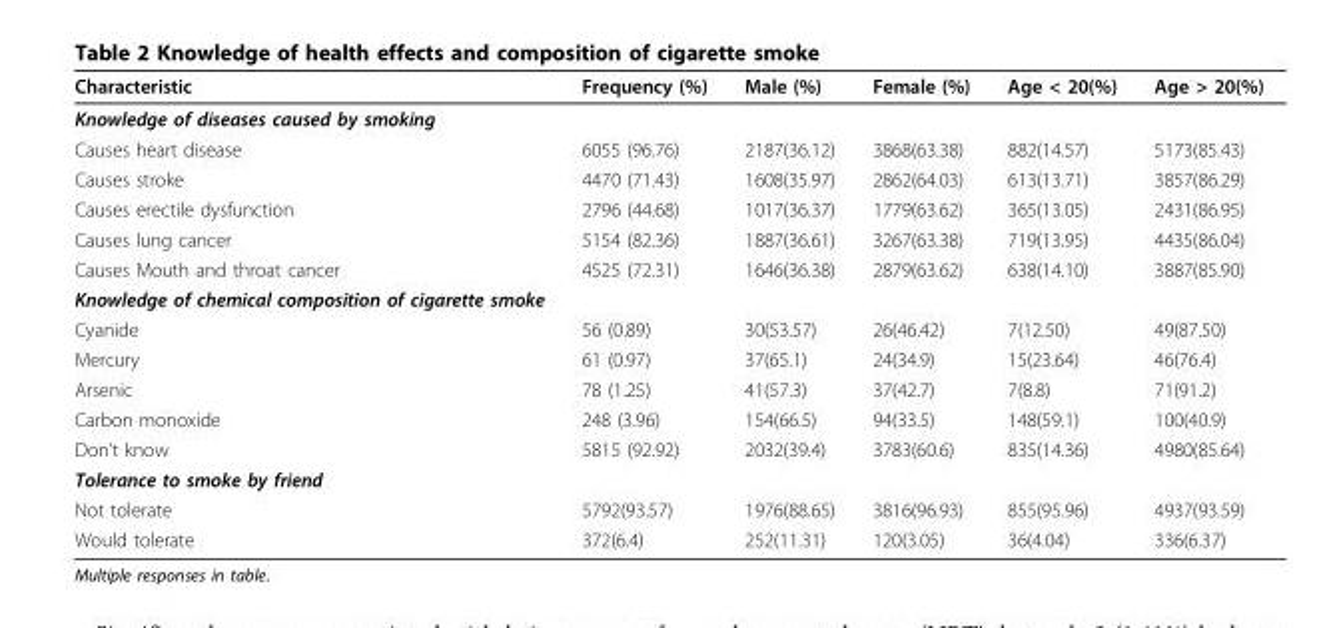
<table><thead><tr><td>Characteristic</td><td>Frequency (%)</td><td>Male (%)</td><td>Female (%)</td><td>Age &lt; 20(%)</td><td>Age &gt; 20(%)</td></tr></thead><tbody><tr><td colspan="6">Knowledge of diseases caused by smoking</td></tr><tr><td>Causes heart disease</td><td>6055 (96.76)</td><td>2187(36.12)</td><td>3868(63.38)</td><td>882(14.57)</td><td>5173(85.43)</td></tr><tr><td>Causes stroke</td><td>4470 (71.43)</td><td>1608(35.97)</td><td>2862(64.03)</td><td>613(13.71)</td><td>3857(86.29)</td></tr><tr><td>Causes erectile dysfunction</td><td>2796 (44.68)</td><td>1017(36.37)</td><td>1779(63.62)</td><td>365(13.05)</td><td>2431(86.95)</td></tr><tr><td>Causes lung cancer</td><td>5154 (82.36)</td><td>1887(36.61)</td><td>3267(63.38)</td><td>719(13.95)</td><td>4435(86.04)</td></tr><tr><td>Causes Mouth and throat cancer</td><td>4525 (72.31)</td><td>1646(36.38)</td><td>2879(63.62)</td><td>638(14.10)</td><td>3887(85.90)</td></tr><tr><td colspan="6">Knowledge of chemical composition of cigarette smoke</td></tr><tr><td>Cyanide</td><td>56 (0.89)</td><td>30(53.57)</td><td>26(46.42)</td><td>7(12.50)</td><td>49(87.50)</td></tr><tr><td>Mercury</td><td>61 (0.97)</td><td>37(65.1)</td><td>24(34.9)</td><td>15(23.64)</td><td>46(76.4)</td></tr><tr><td>Arsenic</td><td>78 (1.25)</td><td>41(57.3)</td><td>37(42.7)</td><td>7(8.8)</td><td>71(91.2)</td></tr><tr><td>Carbon monoxide</td><td>248 (3.96)</td><td>154(66.5)</td><td>94(33.5)</td><td>148(59.1)</td><td>100(40.9)</td></tr><tr><td>Don’t know</td><td>5815 (92.92)</td><td>2032(39.4)</td><td>3783(60.6)</td><td>835(14.36)</td><td>4980(85.64)</td></tr><tr><td colspan="6">Tolerance to smoke by friend</td></tr><tr><td>Not tolerate</td><td>5792(93.57)</td><td>1976(88.65)</td><td>3816(96.93)</td><td>855(95.96)</td><td>4937(93.59)</td></tr><tr><td>Would tolerate</td><td>372(6.4)</td><td>252(11.31)</td><td>120(3.05)</td><td>36(4.04)</td><td>336(6.37)</td></tr></tbody></table>